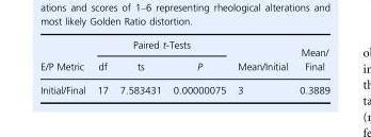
<table><thead><tr><td rowspan="2">E/P Metric</td><td colspan="3">Paired t-Tests</td><td rowspan="2">Mean/Initial</td><td rowspan="2">Mean/ Final</td></tr><tr><td>df</td><td>ts</td><td>P</td></tr></thead><tbody><tr><td>Initial/Final</td><td>17</td><td>7.583431</td><td>0.00000075</td><td>3</td><td>0.3889</td></tr></tbody></table>